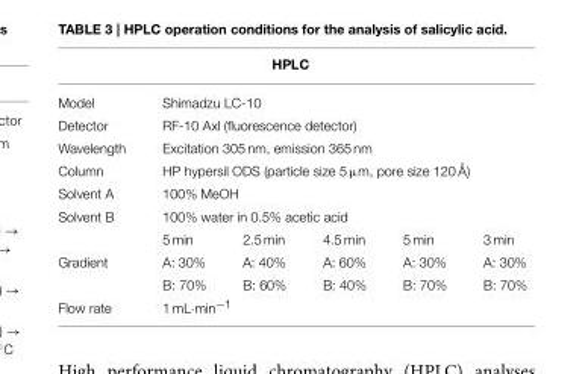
<table><thead><tr><td colspan="6">HPLC</td></tr></thead><tbody><tr><td>Model</td><td colspan="5">Shimadzu LC-10</td></tr><tr><td>Detector</td><td colspan="5">RF-10 Axl (fluorescence detector)</td></tr><tr><td>Wavelength</td><td colspan="5">Excitation 305 nm, emission 365 nm</td></tr><tr><td>Column</td><td colspan="5">HP hypersil ODS (particle size 5 µm, pore size 120 Å)</td></tr><tr><td>Solvent A</td><td colspan="5">100% MeOH</td></tr><tr><td rowspan="2">Solvent B</td><td colspan="5">100% water in 0.5% acetic acid</td></tr><tr><td>5 min</td><td>2.5 min</td><td>4.5 min</td><td>5 min</td><td>3 min</td></tr><tr><td rowspan="2">Gradient</td><td>A: 30%</td><td>A: 40%</td><td>A: 60%</td><td>A: 30%</td><td>A: 30%</td></tr><tr><td>B: 70%</td><td>B: 60%</td><td>B: 40%</td><td>B: 70%</td><td>B: 70%</td></tr><tr><td>Flow rate</td><td colspan="5">1 mL·min<sup>−1</sup></td></tr></tbody></table>